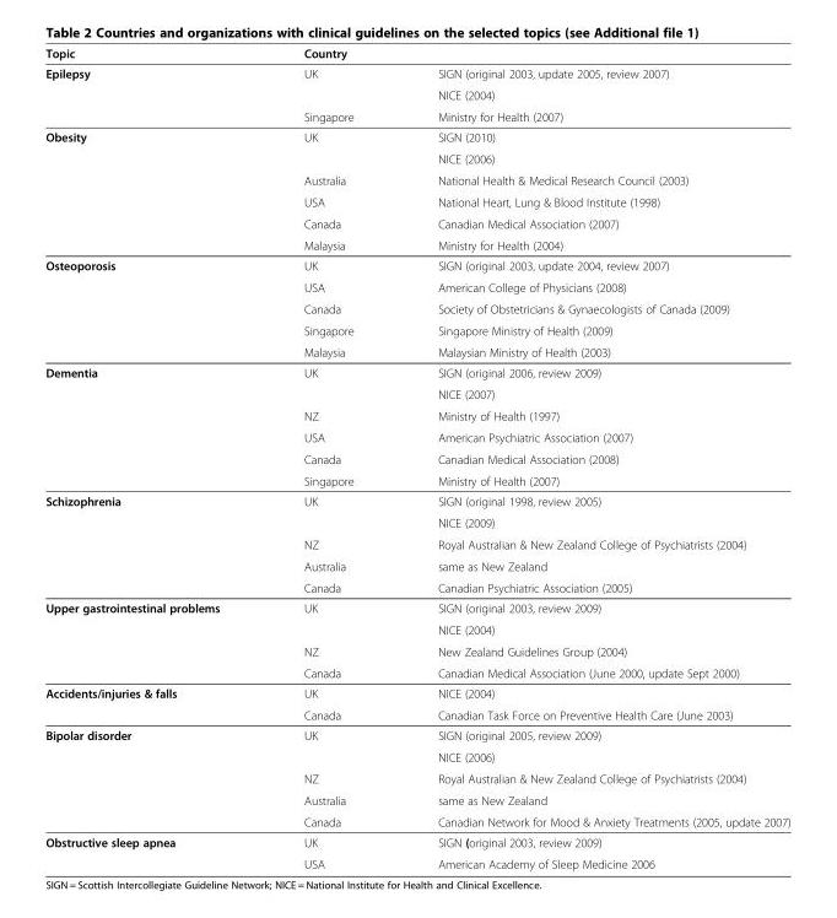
<table><thead><tr><td rowspan="2">Topic Epilepsy</td><td colspan="2">Country</td></tr><tr><td>UK</td><td>SIGN (original 2003, update 2005, review 2007)</td></tr></thead><tbody><tr><td></td><td></td><td>NICE (2004)</td></tr><tr><td></td><td>Singapore</td><td>Ministry for Health (2007)</td></tr><tr><td rowspan="6">Obesity</td><td>UK</td><td>SIGN (2010)</td></tr><tr><td></td><td>NICE (2006)</td></tr><tr><td>Australia</td><td>National Health &amp; Medical Research Council (2003)</td></tr><tr><td>USA</td><td>National Heart, Lung &amp; Blood Institute (1998)</td></tr><tr><td>Canada</td><td>Canadian Medical Association (2007)</td></tr><tr><td>Malaysia</td><td>Ministry for Health (2004)</td></tr><tr><td rowspan="5">Osteoporosis</td><td>UK</td><td>SIGN (original 2003, update 2004, review 2007)</td></tr><tr><td>USA</td><td>American College of Physicians (2008)</td></tr><tr><td>Canada</td><td>Society of Obstetricians &amp; Gynaecologists of Canada (2009)</td></tr><tr><td>Singapore</td><td>Singapore Ministry of Health (2009)</td></tr><tr><td>Malaysia</td><td>Malaysian Ministry of Health (2003)</td></tr><tr><td rowspan="6">Dementia</td><td>UK</td><td>SIGN (original 2006, review 2009)</td></tr><tr><td></td><td>NICE (2007)</td></tr><tr><td>NZ</td><td>Ministry of Health (1997)</td></tr><tr><td>USA</td><td>American Psychiatric Association (2007)</td></tr><tr><td>Canada</td><td>Canadian Medical Association (2008)</td></tr><tr><td>Singapore</td><td>Ministry of Health (2007)</td></tr><tr><td rowspan="5">Schizophrenia</td><td>UK</td><td>SIGN (original 1998, review 2005)</td></tr><tr><td></td><td>NICE (2009)</td></tr><tr><td>NZ</td><td>Royal Australian &amp; New Zealand College of Psychiatrists (2004)</td></tr><tr><td>Australia</td><td>same as New Zealand</td></tr><tr><td>Canada</td><td>Canadian Psychiatric Association (2005)</td></tr><tr><td rowspan="4">Upper gastrointestinal problems</td><td>UK</td><td>SIGN (original 2003, review 2009)</td></tr><tr><td></td><td>NICE (2004)</td></tr><tr><td>NZ</td><td>New Zealand Guidelines Group (2004)</td></tr><tr><td>Canada</td><td>Canadian Medical Association (June 2000, update Sept 2000)</td></tr><tr><td rowspan="2">Accidents/injuries &amp; falls</td><td>UK</td><td>NICE (2004)</td></tr><tr><td>Canada</td><td>Canadian Task Force on Preventive Health Care (June 2003)</td></tr><tr><td rowspan="5">Bipolar disorder</td><td>UK</td><td>SIGN (original 2005, review 2009)</td></tr><tr><td></td><td>NICE (2006)</td></tr><tr><td>NZ</td><td>Royal Australian &amp; New Zealand College of Psychiatrists (2004)</td></tr><tr><td>Australia</td><td>same as New Zealand</td></tr><tr><td>Canada</td><td>Canadian Network for Mood &amp; Anxiety Treatments (2005, update 2007)</td></tr><tr><td rowspan="2">Obstructive sleep apnea</td><td>UK</td><td>SIGN (original 2003, review 2009)</td></tr><tr><td>USA</td><td>American Academy of Sleep Medicine 2006</td></tr></tbody></table>